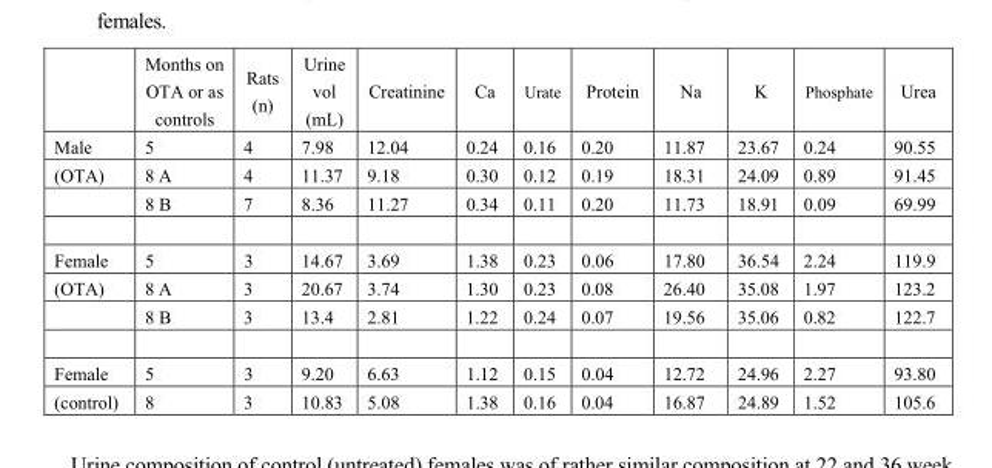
<table><thead><tr><td></td><td>Months on OTA or as controls</td><td>Rats (n)</td><td>Urine vol (mL)</td><td>Creatinine</td><td>Ca</td><td>Urate</td><td>Protein</td><td>Na</td><td>K</td><td>Phosphate</td><td>Urea</td></tr></thead><tbody><tr><td>Male</td><td>5</td><td>4</td><td>7.98</td><td>12.04</td><td>0.24</td><td>0.16</td><td>0.20</td><td>11.87</td><td>23.67</td><td>0.24</td><td>90.55</td></tr><tr><td rowspan="2">(OTA)</td><td>8 A</td><td>4</td><td>11.37</td><td>9.18</td><td>0.30</td><td>0.12</td><td>0.19</td><td>18.31</td><td>24.09</td><td>0.89</td><td>91.45</td></tr><tr><td>8 B</td><td>7</td><td>8.36</td><td>11.27</td><td>0.34</td><td>0.11</td><td>0.20</td><td>11.73</td><td>18.91</td><td>0.09</td><td>69.99</td></tr><tr><td>Female</td><td>5</td><td>3</td><td>14.67</td><td>3.69</td><td>1.38</td><td>0.23</td><td>0.06</td><td>17.80</td><td>36.54</td><td>2.24</td><td>119.9</td></tr><tr><td rowspan="2">(OTA)</td><td>8 A</td><td>3</td><td>20.67</td><td>3.74</td><td>1.30</td><td>0.23</td><td>0.08</td><td>26.40</td><td>35.08</td><td>1.97</td><td>123.2</td></tr><tr><td>8 B</td><td>3</td><td>13.4</td><td>2.81</td><td>1.22</td><td>0.24</td><td>0.07</td><td>19.56</td><td>35.06</td><td>0.82</td><td>122.7</td></tr><tr><td>Female</td><td>5</td><td>3</td><td>9.20</td><td>6.63</td><td>1.12</td><td>0.15</td><td>0.04</td><td>12.72</td><td>24.96</td><td>2.27</td><td>93.80</td></tr><tr><td>(control)</td><td>8</td><td>3</td><td>10.83</td><td>5.08</td><td>1.38</td><td>0.16</td><td>0.04</td><td>16.87</td><td>24.89</td><td>1.52</td><td>105.6</td></tr></tbody></table>